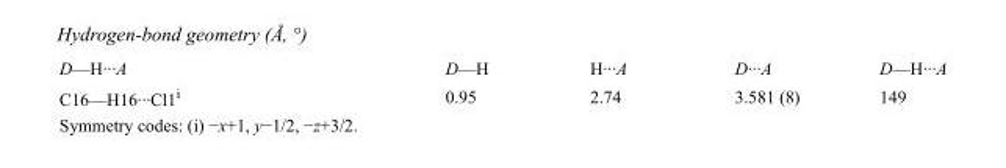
<table><tbody><tr><td>D—H···A</td><td>D—H</td><td>H···A</td><td>D···A</td><td>D—H···A</td></tr><tr><td>C16—H16···Cl1<sup>i</sup></td><td>0.95</td><td>2.74</td><td>3.581 (8)</td><td>149</td></tr></tbody></table>